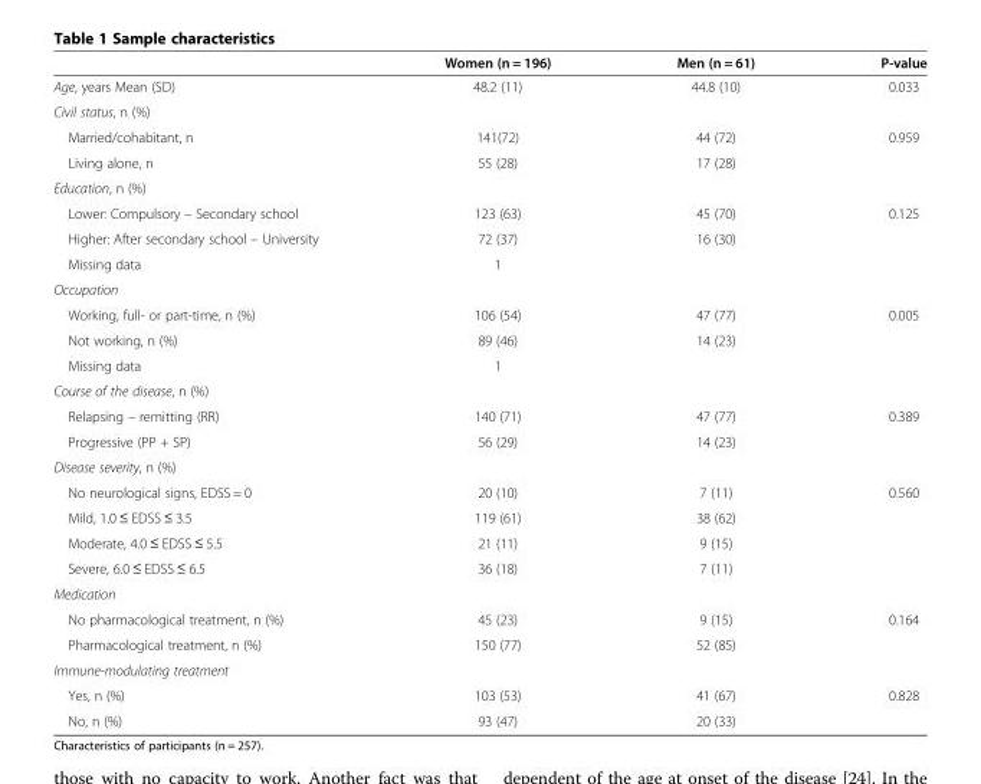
<table><thead><tr><td></td><td>Women (n = 196)</td><td>Men (n = 61)</td><td>P-value</td></tr></thead><tbody><tr><td>Age, years Mean (SD)</td><td>48.2 (11)</td><td>44.8 (10)</td><td>0.033</td></tr><tr><td colspan="4">Civil status, n (%)</td></tr><tr><td>Married/cohabitant, n</td><td>141(72)</td><td>44 (72)</td><td rowspan="2">0.959</td></tr><tr><td>Living alone, n</td><td>55 (28)</td><td>17 (28)</td></tr><tr><td colspan="4">Education, n (%)</td></tr><tr><td>Lower: Compulsory – Secondary school</td><td>123 (63)</td><td>45 (70)</td><td rowspan="3">0.125</td></tr><tr><td>Higher: After secondary school – University</td><td>72 (37)</td><td>16 (30)</td></tr><tr><td>Missing data</td><td>1</td><td></td></tr><tr><td colspan="4">Occupation</td></tr><tr><td>Working, full- or part-time, n (%)</td><td>106 (54)</td><td>47 (77)</td><td rowspan="3">0.005</td></tr><tr><td>Not working, n (%)</td><td>89 (46)</td><td rowspan="2">14 (23)</td></tr><tr><td>Missing data</td><td>1</td></tr><tr><td colspan="4">Course of the disease, n (%)</td></tr><tr><td>Relapsing – remitting (RR)</td><td>140 (71)</td><td>47 (77)</td><td rowspan="2">0.389</td></tr><tr><td>Progressive (PP + SP)</td><td>56 (29)</td><td>14 (23)</td></tr><tr><td colspan="4">Disease severity, n (%)</td></tr><tr><td>No neurological signs, EDSS = 0</td><td>20 (10)</td><td>7 (11)</td><td rowspan="4">0.560</td></tr><tr><td>Mild, 1.0 ≤ EDSS ≤ 3.5</td><td>119 (61)</td><td>38 (62)</td></tr><tr><td>Moderate, 4.0 ≤ EDSS ≤ 5.5</td><td>21 (11)</td><td>9 (15)</td></tr><tr><td>Severe, 6.0 ≤ EDSS ≤ 6.5</td><td>36 (18)</td><td>7 (11)</td></tr><tr><td colspan="4">Medication</td></tr><tr><td>No pharmacological treatment, n (%)</td><td>45 (23)</td><td>9 (15)</td><td rowspan="2">0.164</td></tr><tr><td>Pharmacological treatment, n (%)</td><td>150 (77)</td><td>52 (85)</td></tr><tr><td colspan="4">Immune-modulating treatment</td></tr><tr><td>Yes, n (%)</td><td>103 (53)</td><td>41 (67)</td><td>0.828</td></tr><tr><td>No, n (%)</td><td>93 (47)</td><td>20 (33)</td><td></td></tr></tbody></table>